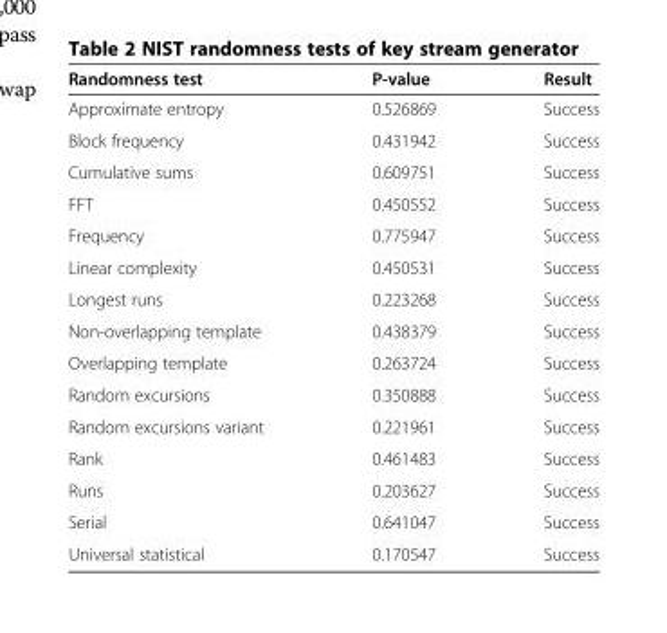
<table><thead><tr><td>Randomness test</td><td>P-value</td><td>Result</td></tr></thead><tbody><tr><td>Approximate entropy</td><td>0.526869</td><td>Success</td></tr><tr><td>Block frequency</td><td>0.431942</td><td>Success</td></tr><tr><td>Cumulative sums</td><td>0.609751</td><td>Success</td></tr><tr><td>FFT</td><td>0.450552</td><td>Success</td></tr><tr><td>Frequency</td><td>0.775947</td><td>Success</td></tr><tr><td>Linear complexity</td><td>0.450531</td><td>Success</td></tr><tr><td>Longest runs</td><td>0.223268</td><td>Success</td></tr><tr><td>Non-overlapping template</td><td>0.438379</td><td>Success</td></tr><tr><td>Overlapping template</td><td>0.263724</td><td>Success</td></tr><tr><td>Random excursions</td><td>0.350888</td><td>Success</td></tr><tr><td>Random excursions variant</td><td>0.221961</td><td>Success</td></tr><tr><td>Rank</td><td>0.461483</td><td>Success</td></tr><tr><td>Runs</td><td>0.203627</td><td>Success</td></tr><tr><td>Serial</td><td>0.641047</td><td>Success</td></tr><tr><td>Universal statistical</td><td>0.170547</td><td>Success</td></tr></tbody></table>